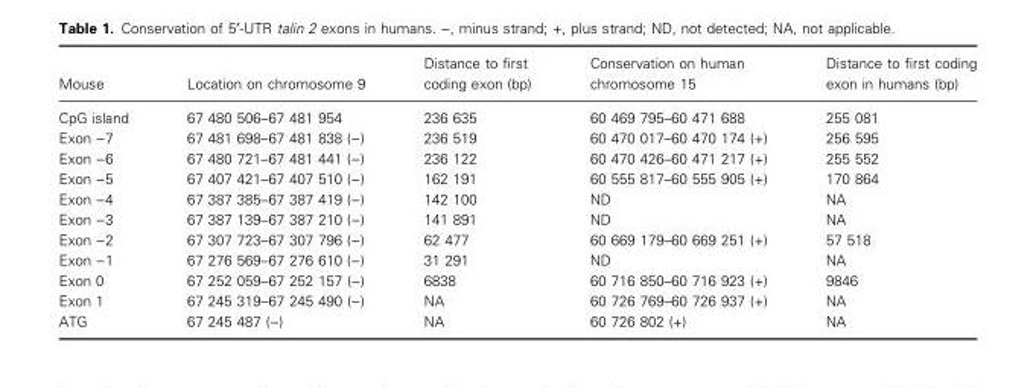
<table><thead><tr><td>Mouse</td><td>Location on chromosome 9</td><td>Distance to first coding exon (bp)</td><td>Conservation on human chromosome 15</td><td>Distance to first coding exon in humans (bp)</td></tr></thead><tbody><tr><td>CpG island</td><td>67 480 506–67 481 954</td><td>236 635</td><td>60 469 795–60 471 688</td><td>255 081</td></tr><tr><td>Exon −7</td><td>67 481 698–67 481 838 (−)</td><td>236 519</td><td>60 470 017–60 470 174 (+)</td><td>256 595</td></tr><tr><td>Exon −6</td><td>67 480 721–67 481 441 (−)</td><td>236 122</td><td>60 470 426–60 471 217 (+)</td><td>255 552</td></tr><tr><td>Exon −5</td><td>67 407 421–67 407 510 (−)</td><td>162 191</td><td>60 555 817–60 555 905 (+)</td><td>170 864</td></tr><tr><td>Exon −4</td><td>67 387 385–67 387 419 (−)</td><td>142 100</td><td>ND</td><td>NA</td></tr><tr><td>Exon −3</td><td>67 387 139–67 387 210 (−)</td><td>141 891</td><td>ND</td><td>NA</td></tr><tr><td>Exon −2</td><td>67 307 723–67 307 796 (−)</td><td>62 477</td><td>60 669 179–60 669 251 (+)</td><td>57 518</td></tr><tr><td>Exon −1</td><td>67 276 569–67 276 610 (−)</td><td>31 291</td><td>ND</td><td>NA</td></tr><tr><td>Exon 0</td><td>67 252 059–67 252 157 (−)</td><td>6838</td><td>60 716 850–60 716 923 (+)</td><td>9846</td></tr><tr><td>Exon 1</td><td>67 245 319–67 245 490 (−)</td><td>NA</td><td>60 726 769–60 726 937 (+)</td><td>NA</td></tr><tr><td>ATG</td><td>67 245 487 (−)</td><td>NA</td><td>60 726 802 (+)</td><td>NA</td></tr></tbody></table>